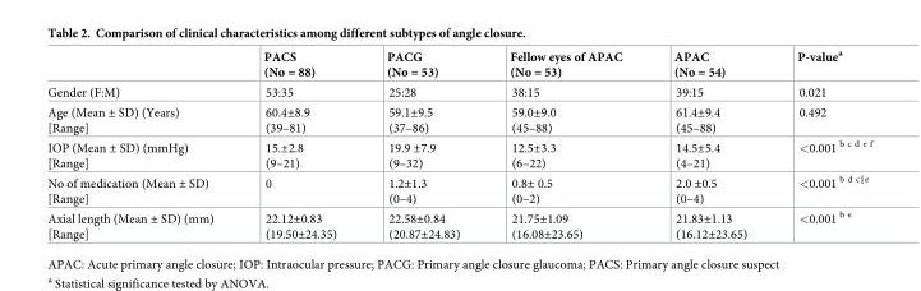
<table><thead><tr><td></td><td>PACS (No = 88)</td><td>PACG (No = 53)</td><td>Fellow eyes of APAC (No = 53)</td><td>APAC (No = 54)</td><td>P-value<sup>a</sup></td></tr></thead><tbody><tr><td>Gender (F:M)</td><td>53:35</td><td>25:28</td><td>38:15</td><td>39:15</td><td>0.021</td></tr><tr><td>Age (Mean ± SD) (Years) [Range]</td><td>60.4±8.9 (39–81)</td><td>59.1±9.5 (37–86)</td><td>59.0±9.0 (45–88)</td><td>61.4±9.4 (45–88)</td><td>0.492</td></tr><tr><td>IOP (Mean ± SD) (mmHg) [Range]</td><td>15.±2.8 (9–21)</td><td>19.9 ±7.9 (9–32)</td><td>12.5±3.3 (6–22)</td><td>14.5±5.4 (4–21)</td><td>&lt;0.001 <sup>b c d e f</sup></td></tr><tr><td>No of medication (Mean ± SD) [Range]</td><td>0</td><td>1.2±1.3 (0–4)</td><td>0.8± 0.5 (0–2)</td><td>2.0 ±0.5 (0–4)</td><td>&lt;0.001 <sup>b d c‖e</sup></td></tr><tr><td>Axial length (Mean ± SD) (mm) [Range]</td><td>22.12±0.83 (19.50±24.35)</td><td>22.58±0.84 (20.87±24.83)</td><td>21.75±1.09 (16.08±23.65)</td><td>21.83±1.13 (16.12±23.65)</td><td>&lt;0.001 <sup>b e</sup></td></tr></tbody></table>